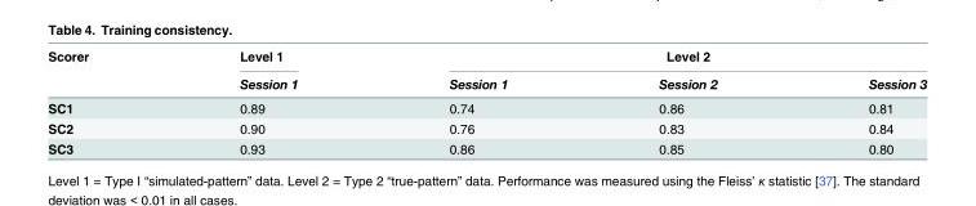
<table><thead><tr><td rowspan="2">Scorer</td><td rowspan="2">Level 1 Session 1</td><td colspan="3">Level 2</td></tr><tr><td>Session 1</td><td>Session 2</td><td>Session 3</td></tr></thead><tbody><tr><td>SC1</td><td>0.89</td><td>0.74</td><td>0.86</td><td>0.81</td></tr><tr><td>SC2</td><td>0.90</td><td>0.76</td><td>0.83</td><td>0.84</td></tr><tr><td>SC3</td><td>0.93</td><td>0.86</td><td>0.85</td><td>0.80</td></tr></tbody></table>